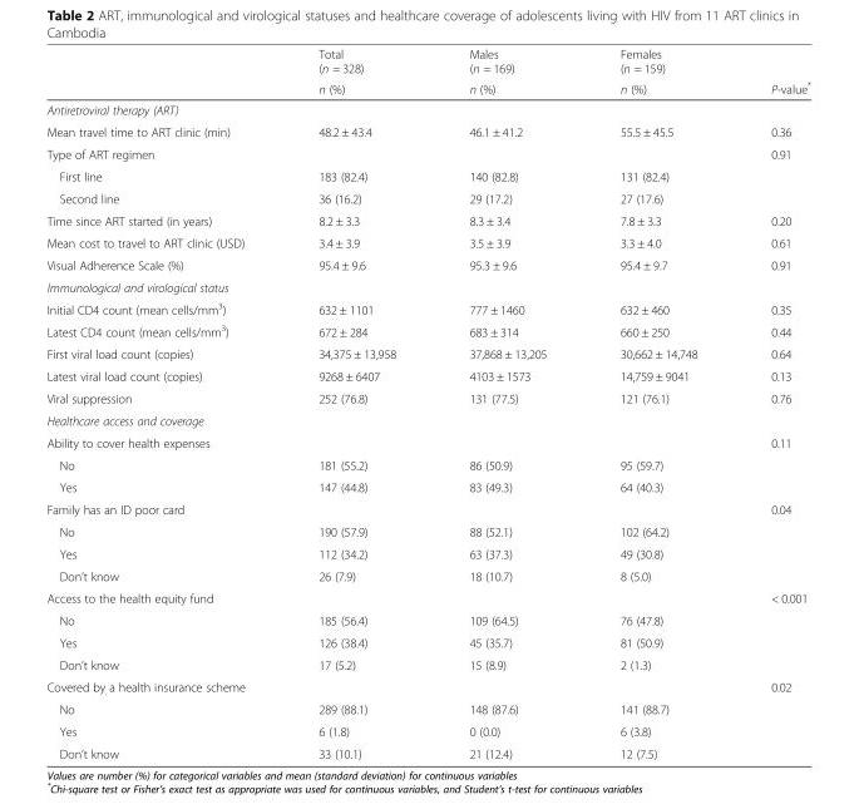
<table><thead><tr><td rowspan="2"></td><td rowspan="2">Total (n = 328) n (%)</td><td rowspan="2">Males (n = 169) n (%)</td><td rowspan="2">Females (n = 159) n (%)</td><td rowspan="2">P-value*</td></tr><tr></tr></thead><tbody><tr><td colspan="5">Antiretroviral therapy (ART)</td></tr><tr><td>Mean travel time to ART clinic (min)</td><td>48.2 ± 43.4</td><td>46.1 ± 41.2</td><td>55.5 ± 45.5</td><td>0.36</td></tr><tr><td>Type of ART regimen</td><td></td><td></td><td></td><td>0.91</td></tr><tr><td>First line</td><td>183 (82.4)</td><td>140 (82.8)</td><td>131 (82.4)</td><td></td></tr><tr><td>Second line</td><td>36 (16.2)</td><td>29 (17.2)</td><td>27 (17.6)</td><td></td></tr><tr><td>Time since ART started (in years)</td><td>8.2 ± 3.3</td><td>8.3 ± 3.4</td><td>7.8 ± 3.3</td><td>0.20</td></tr><tr><td>Mean cost to travel to ART clinic (USD)</td><td>3.4 ± 3.9</td><td>3.5 ± 3.9</td><td>3.3 ± 4.0</td><td>0.61</td></tr><tr><td>Visual Adherence Scale (%)</td><td>95.4 ± 9.6</td><td>95.3 ± 9.6</td><td>95.4 ± 9.7</td><td>0.91</td></tr><tr><td colspan="5">Immunological and virological status</td></tr><tr><td>Initial CD4 count (mean cells/mm<sup>3</sup>)</td><td>632 ± 1101</td><td>777 ± 1460</td><td>632 ± 460</td><td>0.35</td></tr><tr><td>Latest CD4 count (mean cells/mm<sup>3</sup>)</td><td>672 ± 284</td><td>683 ± 314</td><td>660 ± 250</td><td>0.44</td></tr><tr><td>First viral load count (copies)</td><td>34,375 ± 13,958</td><td>37,868 ± 13,205</td><td>30,662 ± 14,748</td><td>0.64</td></tr><tr><td>Latest viral load count (copies)</td><td>9268 ± 6407</td><td>4103 ± 1573</td><td>14,759 ± 9041</td><td>0.13</td></tr><tr><td>Viral suppression</td><td>252 (76.8)</td><td>131 (77.5)</td><td>121 (76.1)</td><td>0.76</td></tr><tr><td colspan="5">Healthcare access and coverage</td></tr><tr><td>Ability to cover health expenses</td><td></td><td></td><td></td><td>0.11</td></tr><tr><td>No</td><td>181 (55.2)</td><td>86 (50.9)</td><td>95 (59.7)</td><td></td></tr><tr><td>Yes</td><td>147 (44.8)</td><td>83 (49.3)</td><td>64 (40.3)</td><td></td></tr><tr><td>Family has an ID poor card</td><td></td><td></td><td></td><td>0.04</td></tr><tr><td>No</td><td>190 (57.9)</td><td>88 (52.1)</td><td>102 (64.2)</td><td></td></tr><tr><td>Yes</td><td>112 (34.2)</td><td>63 (37.3)</td><td>49 (30.8)</td><td></td></tr><tr><td>Don’t know</td><td>26 (7.9)</td><td>18 (10.7)</td><td>8 (5.0)</td><td></td></tr><tr><td>Access to the health equity fund</td><td></td><td></td><td></td><td>&lt; 0.001</td></tr><tr><td>No</td><td>185 (56.4)</td><td>109 (64.5)</td><td>76 (47.8)</td><td></td></tr><tr><td>Yes</td><td>126 (38.4)</td><td>45 (35.7)</td><td>81 (50.9)</td><td></td></tr><tr><td>Don’t know</td><td>17 (5.2)</td><td>15 (8.9)</td><td>2 (1.3)</td><td></td></tr><tr><td>Covered by a health insurance scheme</td><td></td><td></td><td></td><td>0.02</td></tr><tr><td>No</td><td>289 (88.1)</td><td>148 (87.6)</td><td>141 (88.7)</td><td></td></tr><tr><td>Yes</td><td>6 (1.8)</td><td>0 (0.0)</td><td>6 (3.8)</td><td></td></tr><tr><td>Don’t know</td><td>33 (10.1)</td><td>21 (12.4)</td><td>12 (7.5)</td><td></td></tr></tbody></table>